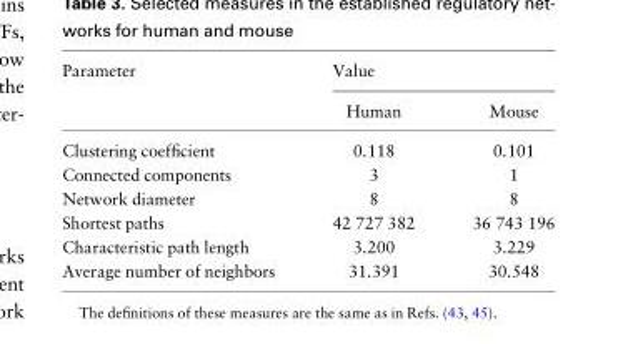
<table><thead><tr><td rowspan="2">Parameter</td><td colspan="2">Value</td></tr><tr><td>Human</td><td>Mouse</td></tr></thead><tbody><tr><td>Clustering coefficient</td><td>0.118</td><td>0.101</td></tr><tr><td>Connected components</td><td>3</td><td>1</td></tr><tr><td>Network diameter</td><td>8</td><td>8</td></tr><tr><td>Shortest paths</td><td>42 727 382</td><td>36 743 196</td></tr><tr><td>Characteristic path length</td><td>3.200</td><td>3.229</td></tr><tr><td>Average number of neighbors</td><td>31.391</td><td>30.548</td></tr></tbody></table>